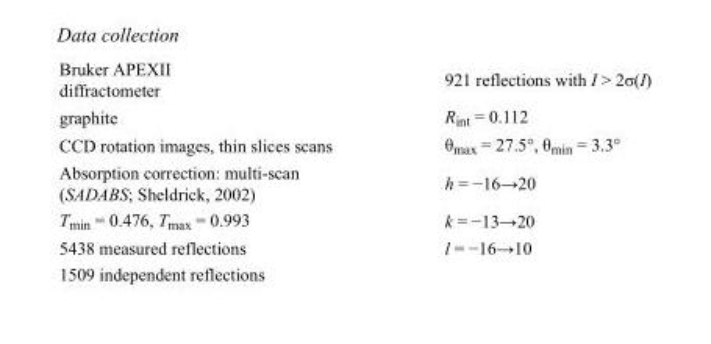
<table><tbody><tr><td>Bruker APEXII diffractometer</td><td>921 reflections with I &gt; 2σ(I)</td></tr><tr><td>graphite</td><td>R<sub>int</sub> = 0.112</td></tr><tr><td>CCD rotation images, thin slices scans</td><td>θ<sub>max</sub> = 27.5°, θ<sub>min</sub> = 3.3°</td></tr><tr><td>Absorption correction: multi-scan (SADABS; Sheldrick, 2002)</td><td>h = −16→20</td></tr><tr><td>T<sub>min</sub> = 0.476, T<sub>max</sub> = 0.993</td><td>k = −13→20</td></tr><tr><td>5438 measured reflections</td><td>l = −16→10</td></tr><tr><td>1509 independent reflections</td><td></td></tr></tbody></table>